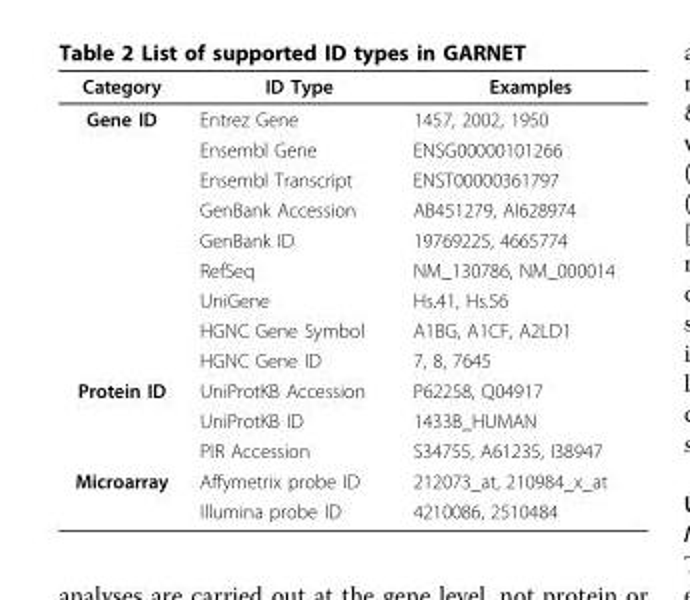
<table><thead><tr><td>Category</td><td>ID Type</td><td>Examples</td></tr></thead><tbody><tr><td rowspan="9">Gene ID</td><td>Entrez Gene</td><td>1457, 2002, 1950</td></tr><tr><td>Ensembl Gene</td><td>ENSG00000101266</td></tr><tr><td>Ensembl Transcript</td><td>ENST00000361797</td></tr><tr><td>GenBank Accession</td><td>AB451279, AI628974</td></tr><tr><td>GenBank ID</td><td>19769225, 4665774</td></tr><tr><td>RefSeq</td><td>NM_130786, NM_000014</td></tr><tr><td>UniGene</td><td>Hs.41, Hs.56</td></tr><tr><td>HGNC Gene Symbol</td><td>A1BG, A1CF, A2LD1</td></tr><tr><td>HGNC Gene ID</td><td>7, 8, 7645</td></tr><tr><td rowspan="3">Protein ID</td><td>UniProtKB Accession</td><td>P62258, Q04917</td></tr><tr><td>UniProtKB ID</td><td>1433B_HUMAN</td></tr><tr><td>PIR Accession</td><td>S34755, A61235, I38947</td></tr><tr><td rowspan="2">Microarray</td><td>Affymetrix probe ID</td><td>212073_at, 210984_x_at</td></tr><tr><td>Illumina probe ID</td><td>4210086, 2510484</td></tr></tbody></table>